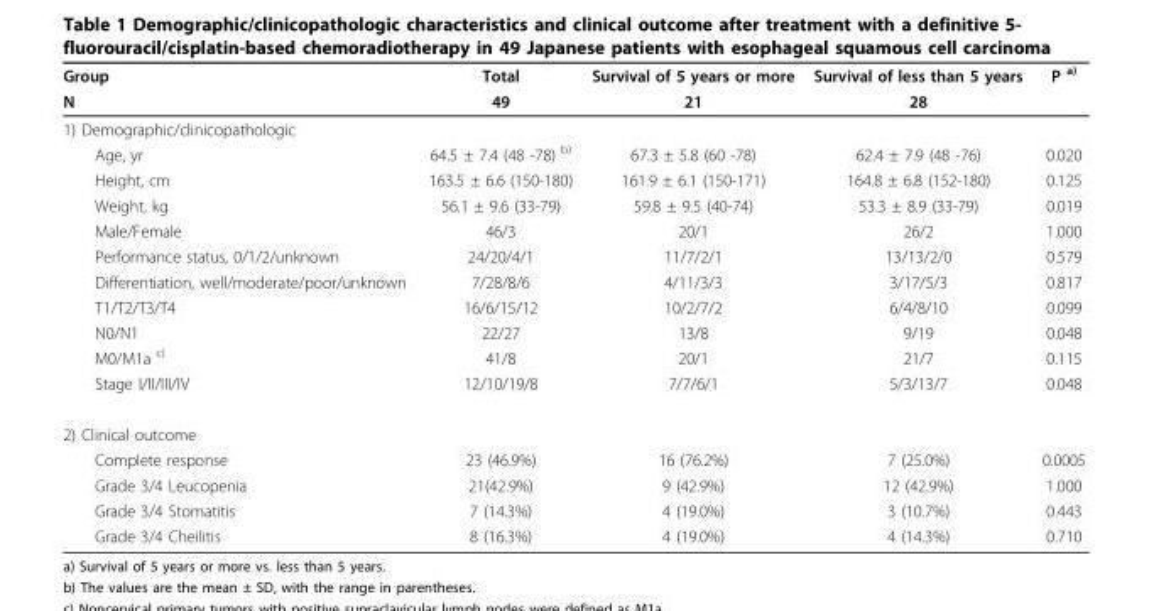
<table><thead><tr><td rowspan="2">Group N</td><td rowspan="2">Total 49</td><td rowspan="2">Survival of 5 years or more 21</td><td rowspan="2">Survival of less than 5 years 28</td><td rowspan="2">P <sup>a)</sup></td></tr><tr></tr></thead><tbody><tr><td colspan="5">1) Demographic/clinicopathologic</td></tr><tr><td>Age, yr</td><td>64.5 ± 7.4 (48 -78) <sup>b)</sup></td><td>67.3 ± 5.8 (60 -78)</td><td>62.4 ± 7.9 (48 -76)</td><td>0.020</td></tr><tr><td>Height, cm</td><td>163.5 ± 6.6 (150-180)</td><td>161.9 ± 6.1 (150-171)</td><td>164.8 ± 6.8 (152-180)</td><td>0.125</td></tr><tr><td>Weight, kg</td><td>56.1 ± 9.6 (33-79)</td><td>59.8 ± 9.5 (40-74)</td><td>53.3 ± 8.9 (33-79)</td><td>0.019</td></tr><tr><td>Male/Female</td><td>46/3</td><td>20/1</td><td>26/2</td><td>1.000</td></tr><tr><td>Performance status, 0/1/2/unknown</td><td>24/20/4/1</td><td>11/7/2/1</td><td>13/13/2/0</td><td>0.579</td></tr><tr><td>Differentiation, well/moderate/poor/unknown</td><td>7/28/8/6</td><td>4/11/3/3</td><td>3/17/5/3</td><td>0.817</td></tr><tr><td>T1/T2/T3/T4</td><td>16/6/15/12</td><td>10/2/7/2</td><td>6/4/8/10</td><td>0.099</td></tr><tr><td>N0/N1</td><td>22/27</td><td>13/8</td><td>9/19</td><td>0.048</td></tr><tr><td>M0/M1a <sup>c)</sup></td><td>41/8</td><td>20/1</td><td>21/7</td><td>0.115</td></tr><tr><td>Stage I/II/III/IV</td><td>12/10/19/8</td><td>7/7/6/1</td><td>5/3/13/7</td><td>0.048</td></tr><tr><td colspan="5">2) Clinical outcome</td></tr><tr><td>Complete response</td><td>23 (46.9%)</td><td>16 (76.2%)</td><td>7 (25.0%)</td><td>0.0005</td></tr><tr><td>Grade 3/4 Leucopenia</td><td>21(42.9%)</td><td>9 (42.9%)</td><td>12 (42.9%)</td><td>1.000</td></tr><tr><td>Grade 3/4 Stomatitis</td><td>7 (14.3%)</td><td>4 (19.0%)</td><td>3 (10.7%)</td><td>0.443</td></tr><tr><td>Grade 3/4 Cheilitis</td><td>8 (16.3%)</td><td>4 (19.0%)</td><td>4 (14.3%)</td><td>0.710</td></tr></tbody></table>